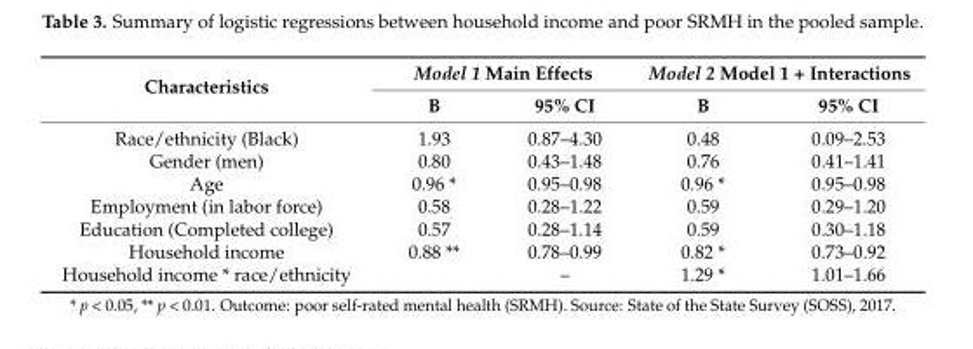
<table><thead><tr><td rowspan="2">Characteristics</td><td colspan="2">Model 1 Main Effects</td><td colspan="2">Model 2 Model 1 + Interactions</td></tr><tr><td>B</td><td>95% CI</td><td>B</td><td>95% CI</td></tr></thead><tbody><tr><td>Race/ethnicity (Black)</td><td>1.93</td><td>0.87–4.30</td><td>0.48</td><td>0.09–2.53</td></tr><tr><td>Gender (men)</td><td>0.80</td><td>0.43–1.48</td><td>0.76</td><td>0.41–1.41</td></tr><tr><td>Age</td><td>0.96 *</td><td>0.95–0.98</td><td>0.96 *</td><td>0.95–0.98</td></tr><tr><td>Employment (in labor force)</td><td>0.58</td><td>0.28–1.22</td><td>0.59</td><td>0.29–1.20</td></tr><tr><td>Education (Completed college)</td><td>0.57</td><td>0.28–1.14</td><td>0.59</td><td>0.30–1.18</td></tr><tr><td>Household income</td><td>0.88 **</td><td>0.78–0.99</td><td>0.82 *</td><td>0.73–0.92</td></tr><tr><td>Household income * race/ethnicity</td><td></td><td>–</td><td>1.29 *</td><td>1.01–1.66</td></tr></tbody></table>